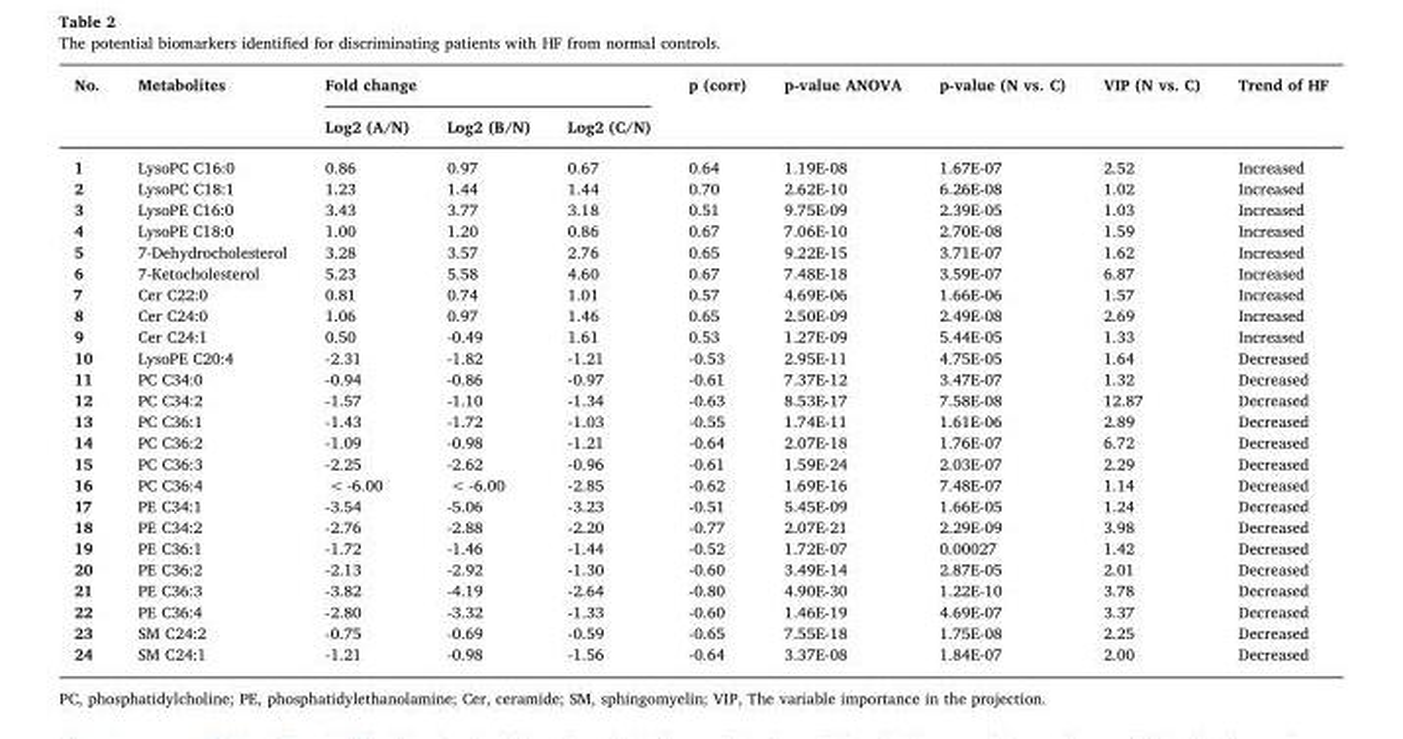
<table><thead><tr><td rowspan="2">No.</td><td rowspan="2">Metabolites</td><td colspan="3">Fold change</td><td rowspan="2">p (corr)</td><td rowspan="2">p-value ANOVA</td><td rowspan="2">p-value (N vs. C)</td><td rowspan="2">VIP (N vs. C)</td><td rowspan="2">Trend of HF</td></tr><tr><td>Log2 (A/N)</td><td>Log2 (B/N)</td><td>Log2 (C/N)</td></tr></thead><tbody><tr><td>1</td><td>LysoPC C16:0</td><td>0.86</td><td>0.97</td><td>0.67</td><td>0.64</td><td>1.19E-08</td><td>1.67E-07</td><td>2.52</td><td>Increased</td></tr><tr><td>2</td><td>LysoPC C18:1</td><td>1.23</td><td>1.44</td><td>1.44</td><td>0.70</td><td>2.62E-10</td><td>6.26E-08</td><td>1.02</td><td>Increased</td></tr><tr><td>3</td><td>LysoPE C16:0</td><td>3.43</td><td>3.77</td><td>3.18</td><td>0.51</td><td>9.75E-09</td><td>2.39E-05</td><td>1.03</td><td>Increased</td></tr><tr><td>4</td><td>LysoPE C18:0</td><td>1.00</td><td>1.20</td><td>0.86</td><td>0.67</td><td>7.06E-10</td><td>2.70E-08</td><td>1.59</td><td>Increased</td></tr><tr><td>5</td><td>7-Dehydrocholesterol</td><td>3.28</td><td>3.57</td><td>2.76</td><td>0.65</td><td>9.22E-15</td><td>3.71E-07</td><td>1.62</td><td>Increased</td></tr><tr><td>6</td><td>7-Ketocholesterol</td><td>5.23</td><td>5.58</td><td>4.60</td><td>0.67</td><td>7.48E-18</td><td>3.59E-07</td><td>6.87</td><td>Increased</td></tr><tr><td>7</td><td>Cer C22:0</td><td>0.81</td><td>0.74</td><td>1.01</td><td>0.57</td><td>4.69E-06</td><td>1.66E-06</td><td>1.57</td><td>Increased</td></tr><tr><td>8</td><td>Cer C24:0</td><td>1.06</td><td>0.97</td><td>1.46</td><td>0.65</td><td>2.50E-09</td><td>2.49E-08</td><td>2.69</td><td>Increased</td></tr><tr><td>9</td><td>Cer C24:1</td><td>0.50</td><td>-0.49</td><td>1.61</td><td>0.53</td><td>1.27E-09</td><td>5.44E-05</td><td>1.33</td><td>Increased</td></tr><tr><td>10</td><td>LysoPE C20:4</td><td>-2.31</td><td>-1.82</td><td>-1.21</td><td>-0.53</td><td>2.95E-11</td><td>4.75E-05</td><td>1.64</td><td>Decreased</td></tr><tr><td>11</td><td>PC C34:0</td><td>-0.94</td><td>-0.86</td><td>-0.97</td><td>-0.61</td><td>7.37E-12</td><td>3.47E-07</td><td>1.32</td><td>Decreased</td></tr><tr><td>12</td><td>PC C34:2</td><td>-1.57</td><td>-1.10</td><td>-1.34</td><td>-0.63</td><td>8.53E-17</td><td>7.58E-08</td><td>12.87</td><td>Decreased</td></tr><tr><td>13</td><td>PC C36:1</td><td>-1.43</td><td>-1.72</td><td>-1.03</td><td>-0.55</td><td>1.74E-11</td><td>1.61E-06</td><td>2.89</td><td>Decreased</td></tr><tr><td>14</td><td>PC C36:2</td><td>-1.09</td><td>-0.98</td><td>-1.21</td><td>-0.64</td><td>2.07E-18</td><td>1.76E-07</td><td>6.72</td><td>Decreased</td></tr><tr><td>15</td><td>PC C36:3</td><td>-2.25</td><td>-2.62</td><td>-0.96</td><td>-0.61</td><td>1.59E-24</td><td>2.03E-07</td><td>2.29</td><td>Decreased</td></tr><tr><td>16</td><td>PC C36:4</td><td>&lt; -6.00</td><td>&lt; -6.00</td><td>-2.85</td><td>-0.62</td><td>1.69E-16</td><td>7.48E-07</td><td>1.14</td><td>Decreased</td></tr><tr><td>17</td><td>PE C34:1</td><td>-3.54</td><td>-5.06</td><td>-3.23</td><td>-0.51</td><td>5.45E-09</td><td>1.66E-05</td><td>1.24</td><td>Decreased</td></tr><tr><td>18</td><td>PE C34:2</td><td>-2.76</td><td>-2.88</td><td>-2.20</td><td>-0.77</td><td>2.07E-21</td><td>2.29E-09</td><td>3.98</td><td>Decreased</td></tr><tr><td>19</td><td>PE C36:1</td><td>-1.72</td><td>-1.46</td><td>-1.44</td><td>-0.52</td><td>1.72E-07</td><td>0.00027</td><td>1.42</td><td>Decreased</td></tr><tr><td>20</td><td>PE C36:2</td><td>-2.13</td><td>-2.92</td><td>-1.30</td><td>-0.60</td><td>3.49E-14</td><td>2.87E-05</td><td>2.01</td><td>Decreased</td></tr><tr><td>21</td><td>PE C36:3</td><td>-3.82</td><td>-4.19</td><td>-2.64</td><td>-0.80</td><td>4.90E-30</td><td>1.22E-10</td><td>3.78</td><td>Decreased</td></tr><tr><td>22</td><td>PE C36:4</td><td>-2.80</td><td>-3.32</td><td>-1.33</td><td>-0.60</td><td>1.46E-19</td><td>4.69E-07</td><td>3.37</td><td>Decreased</td></tr><tr><td>23</td><td>SM C24:2</td><td>-0.75</td><td>-0.69</td><td>-0.59</td><td>-0.65</td><td>7.55E-18</td><td>1.75E-08</td><td>2.25</td><td>Decreased</td></tr><tr><td>24</td><td>SM C24:1</td><td>-1.21</td><td>-0.98</td><td>-1.56</td><td>-0.64</td><td>3.37E-08</td><td>1.84E-07</td><td>2.00</td><td>Decreased</td></tr></tbody></table>